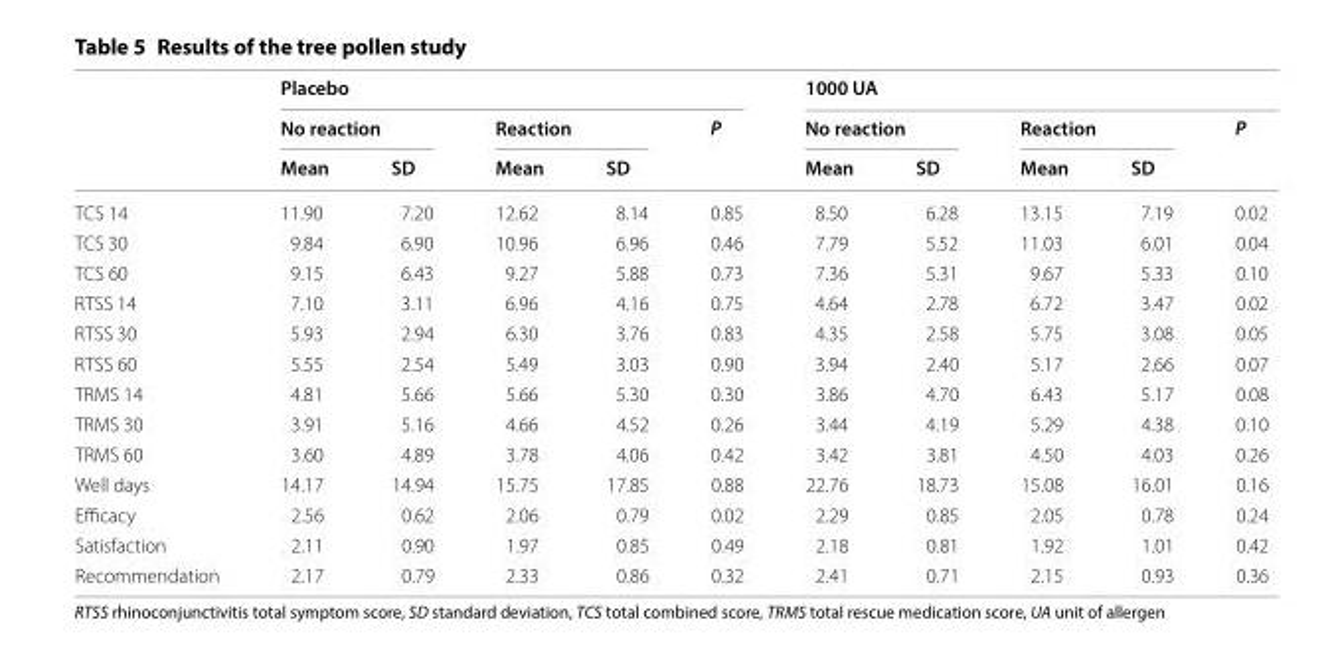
<table><thead><tr><td rowspan="3"></td><td colspan="5">Placebo</td><td colspan="5">1000 UA</td></tr><tr><td colspan="2">No reaction</td><td colspan="2">Reaction</td><td rowspan="2">P</td><td colspan="2">No reaction</td><td colspan="2">Reaction</td><td rowspan="2">P</td></tr><tr><td>Mean</td><td>SD</td><td>Mean</td><td>SD</td><td>Mean</td><td>SD</td><td>Mean</td><td>SD</td></tr></thead><tbody><tr><td>TCS 14</td><td>11.90</td><td>7.20</td><td>12.62</td><td>8.14</td><td>0.85</td><td>8.50</td><td>6.28</td><td>13.15</td><td>7.19</td><td>0.02</td></tr><tr><td>TCS 30</td><td>9.84</td><td>6.90</td><td>10.96</td><td>6.96</td><td>0.46</td><td>7.79</td><td>5.52</td><td>11.03</td><td>6.01</td><td>0.04</td></tr><tr><td>TCS 60</td><td>9.15</td><td>6.43</td><td>9.27</td><td>5.88</td><td>0.73</td><td>7.36</td><td>5.31</td><td>9.67</td><td>5.33</td><td>0.10</td></tr><tr><td>RTSS 14</td><td>7.10</td><td>3.11</td><td>6.96</td><td>4.16</td><td>0.75</td><td>4.64</td><td>2.78</td><td>6.72</td><td>3.47</td><td>0.02</td></tr><tr><td>RTSS 30</td><td>5.93</td><td>2.94</td><td>6.30</td><td>3.76</td><td>0.83</td><td>4.35</td><td>2.58</td><td>5.75</td><td>3.08</td><td>0.05</td></tr><tr><td>RTSS 60</td><td>5.55</td><td>2.54</td><td>5.49</td><td>3.03</td><td>0.90</td><td>3.94</td><td>2.40</td><td>5.17</td><td>2.66</td><td>0.07</td></tr><tr><td>TRMS 14</td><td>4.81</td><td>5.66</td><td>5.66</td><td>5.30</td><td>0.30</td><td>3.86</td><td>4.70</td><td>6.43</td><td>5.17</td><td>0.08</td></tr><tr><td>TRMS 30</td><td>3.91</td><td>5.16</td><td>4.66</td><td>4.52</td><td>0.26</td><td>3.44</td><td>4.19</td><td>5.29</td><td>4.38</td><td>0.10</td></tr><tr><td>TRMS 60</td><td>3.60</td><td>4.89</td><td>3.78</td><td>4.06</td><td>0.42</td><td>3.42</td><td>3.81</td><td>4.50</td><td>4.03</td><td>0.26</td></tr><tr><td>Well days</td><td>14.17</td><td>14.94</td><td>15.75</td><td>17.85</td><td>0.88</td><td>22.76</td><td>18.73</td><td>15.08</td><td>16.01</td><td>0.16</td></tr><tr><td>Efficacy</td><td>2.56</td><td>0.62</td><td>2.06</td><td>0.79</td><td>0.02</td><td>2.29</td><td>0.85</td><td>2.05</td><td>0.78</td><td>0.24</td></tr><tr><td>Satisfaction</td><td>2.11</td><td>0.90</td><td>1.97</td><td>0.85</td><td>0.49</td><td>2.18</td><td>0.81</td><td>1.92</td><td>1.01</td><td>0.42</td></tr><tr><td>Recommendation</td><td>2.17</td><td>0.79</td><td>2.33</td><td>0.86</td><td>0.32</td><td>2.41</td><td>0.71</td><td>2.15</td><td>0.93</td><td>0.36</td></tr></tbody></table>